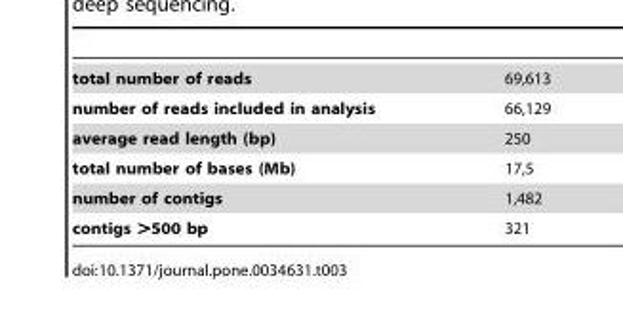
<table><tbody><tr><td>total number of reads</td><td>69,613</td></tr><tr><td>number of reads included in analysis</td><td>66,129</td></tr><tr><td>average read length (bp)</td><td>250</td></tr><tr><td>total number of bases (Mb)</td><td>17,5</td></tr><tr><td>number of contigs</td><td>1,482</td></tr><tr><td>contigs &gt;500 bp</td><td>321</td></tr></tbody></table>